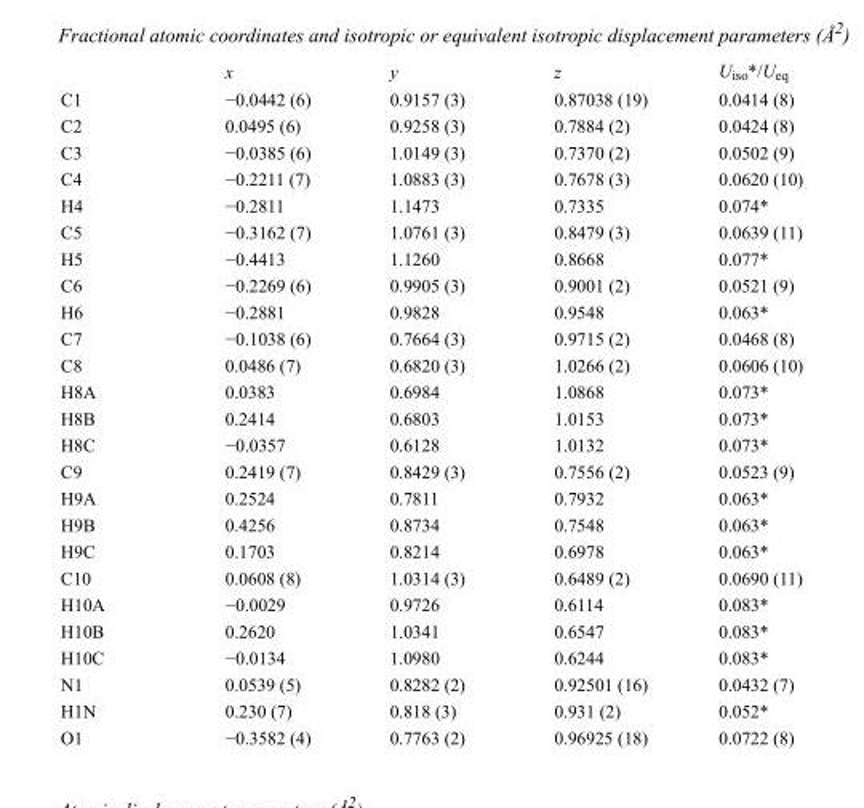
<table><thead><tr><td></td><td>x</td><td>y</td><td>z</td><td>U<sub>iso</sub>*/U<sub>eq</sub></td></tr></thead><tbody><tr><td>C1</td><td>−0.0442 (6)</td><td>0.9157 (3)</td><td>0.87038 (19)</td><td>0.0414 (8)</td></tr><tr><td>C2</td><td>0.0495 (6)</td><td>0.9258 (3)</td><td>0.7884 (2)</td><td>0.0424 (8)</td></tr><tr><td>C3</td><td>−0.0385 (6)</td><td>1.0149 (3)</td><td>0.7370 (2)</td><td>0.0502 (9)</td></tr><tr><td>C4</td><td>−0.2211 (7)</td><td>1.0883 (3)</td><td>0.7678 (3)</td><td>0.0620 (10)</td></tr><tr><td>H4</td><td>−0.2811</td><td>1.1473</td><td>0.7335</td><td>0.074*</td></tr><tr><td>C5</td><td>−0.3162 (7)</td><td>1.0761 (3)</td><td>0.8479 (3)</td><td>0.0639 (11)</td></tr><tr><td>H5</td><td>−0.4413</td><td>1.1260</td><td>0.8668</td><td>0.077*</td></tr><tr><td>C6</td><td>−0.2269 (6)</td><td>0.9905 (3)</td><td>0.9001 (2)</td><td>0.0521 (9)</td></tr><tr><td>H6</td><td>−0.2881</td><td>0.9828</td><td>0.9548</td><td>0.063*</td></tr><tr><td>C7</td><td>−0.1038 (6)</td><td>0.7664 (3)</td><td>0.9715 (2)</td><td>0.0468 (8)</td></tr><tr><td>C8</td><td>0.0486 (7)</td><td>0.6820 (3)</td><td>1.0266 (2)</td><td>0.0606 (10)</td></tr><tr><td>H8A</td><td>0.0383</td><td>0.6984</td><td>1.0868</td><td>0.073*</td></tr><tr><td>H8B</td><td>0.2414</td><td>0.6803</td><td>1.0153</td><td>0.073*</td></tr><tr><td>H8C</td><td>−0.0357</td><td>0.6128</td><td>1.0132</td><td>0.073*</td></tr><tr><td>C9</td><td>0.2419 (7)</td><td>0.8429 (3)</td><td>0.7556 (2)</td><td>0.0523 (9)</td></tr><tr><td>H9A</td><td>0.2524</td><td>0.7811</td><td>0.7932</td><td>0.063*</td></tr><tr><td>H9B</td><td>0.4256</td><td>0.8734</td><td>0.7548</td><td>0.063*</td></tr><tr><td>H9C</td><td>0.1703</td><td>0.8214</td><td>0.6978</td><td>0.063*</td></tr><tr><td>C10</td><td>0.0608 (8)</td><td>1.0314 (3)</td><td>0.6489 (2)</td><td>0.0690 (11)</td></tr><tr><td>H10A</td><td>−0.0029</td><td>0.9726</td><td>0.6114</td><td>0.083*</td></tr><tr><td>H10B</td><td>0.2620</td><td>1.0341</td><td>0.6547</td><td>0.083*</td></tr><tr><td>H10C</td><td>−0.0134</td><td>1.0980</td><td>0.6244</td><td>0.083*</td></tr><tr><td>N1</td><td>0.0539 (5)</td><td>0.8282 (2)</td><td>0.92501 (16)</td><td>0.0432 (7)</td></tr><tr><td>H1N</td><td>0.230 (7)</td><td>0.818 (3)</td><td>0.931 (2)</td><td>0.052*</td></tr><tr><td>O1</td><td>−0.3582 (4)</td><td>0.7763 (2)</td><td>0.96925 (18)</td><td>0.0722 (8)</td></tr></tbody></table>